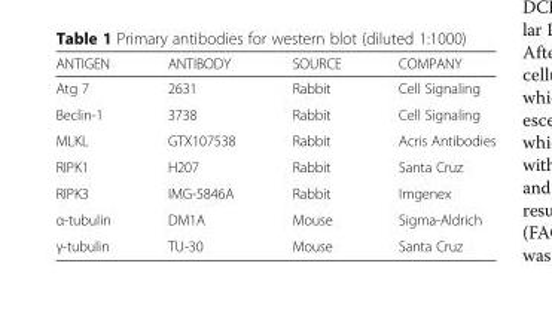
<table><thead><tr><td>ANTIGEN</td><td>ANTIBODY</td><td>SOURCE</td><td>COMPANY</td></tr></thead><tbody><tr><td>Atg 7</td><td>2631</td><td>Rabbit</td><td>Cell Signaling</td></tr><tr><td>Beclin-1</td><td>3738</td><td>Rabbit</td><td>Cell Signaling</td></tr><tr><td>MLKL</td><td>GTX107538</td><td>Rabbit</td><td>Acris Antibodies</td></tr><tr><td>RIPK1</td><td>H207</td><td>Rabbit</td><td>Santa Cruz</td></tr><tr><td>RIPK3</td><td>IMG-5846A</td><td>Rabbit</td><td>Imgenex</td></tr><tr><td>α-tubulin</td><td>DM1A</td><td>Mouse</td><td>Sigma-Aldrich</td></tr><tr><td>γ-tubulin</td><td>TU-30</td><td>Mouse</td><td>Santa Cruz</td></tr></tbody></table>